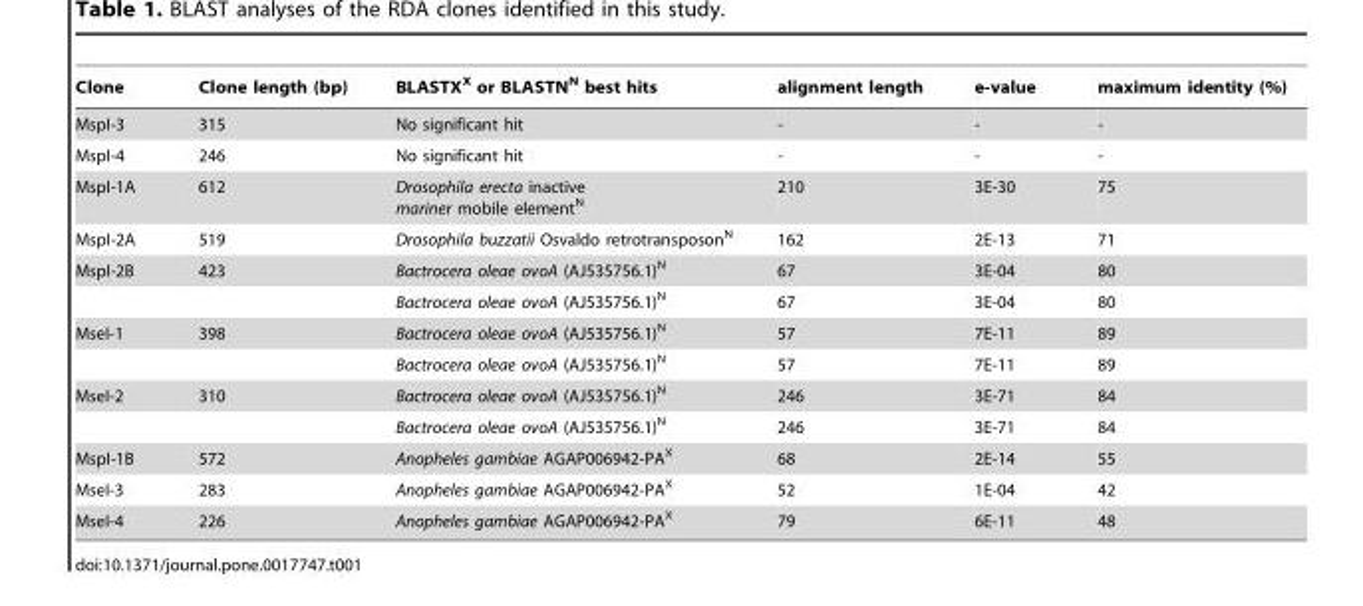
<table><thead><tr><td>Clone</td><td>Clone length (bp)</td><td>BLASTX<sup>X</sup> or BLASTN<sup>N</sup> best hits</td><td>alignment length</td><td>e-value</td><td>maximum identity (%)</td></tr></thead><tbody><tr><td>MspI-3</td><td>315</td><td>No significant hit</td><td>-</td><td>-</td><td>-</td></tr><tr><td>MspI-4</td><td>246</td><td>No significant hit</td><td>-</td><td>-</td><td>-</td></tr><tr><td>MspI-1A</td><td>612</td><td>Drosophila erecta inactive mariner mobile element<sup>N</sup></td><td>210</td><td>3E-30</td><td>75</td></tr><tr><td>MspI-2A</td><td>519</td><td>Drosophila buzzatii Osvaldo retrotransposon<sup>N</sup></td><td>162</td><td>2E-13</td><td>71</td></tr><tr><td rowspan="2">MspI-2B</td><td>423</td><td>Bactrocera oleae ovoA (AJ535756.1)<sup>N</sup></td><td>67</td><td>3E-04</td><td>80</td></tr><tr><td></td><td>Bactrocera oleae ovoA (AJ535756.1)<sup>N</sup></td><td>67</td><td>3E-04</td><td>80</td></tr><tr><td rowspan="2">MseI-1</td><td>398</td><td>Bactrocera oleae ovoA (AJ535756.1)<sup>N</sup></td><td>57</td><td>7E-11</td><td>89</td></tr><tr><td></td><td>Bactrocera oleae ovoA (AJ535756.1)<sup>N</sup></td><td>57</td><td>7E-11</td><td>89</td></tr><tr><td rowspan="2">MseI-2</td><td>310</td><td>Bactrocera oleae ovoA (AJ535756.1)<sup>N</sup></td><td>246</td><td>3E-71</td><td>84</td></tr><tr><td></td><td>Bactrocera oleae ovoA (AJ535756.1)<sup>N</sup></td><td>246</td><td>3E-71</td><td>84</td></tr><tr><td>MspI-1B</td><td>572</td><td>Anopheles gambiae AGAP006942-PA<sup>X</sup></td><td>68</td><td>2E-14</td><td>55</td></tr><tr><td>MseI-3</td><td>283</td><td>Anopheles gambiae AGAP006942-PA<sup>X</sup></td><td>52</td><td>1E-04</td><td>42</td></tr><tr><td>MseI-4</td><td>226</td><td>Anopheles gambiae AGAP006942-PA<sup>X</sup></td><td>79</td><td>6E-11</td><td>48</td></tr></tbody></table>